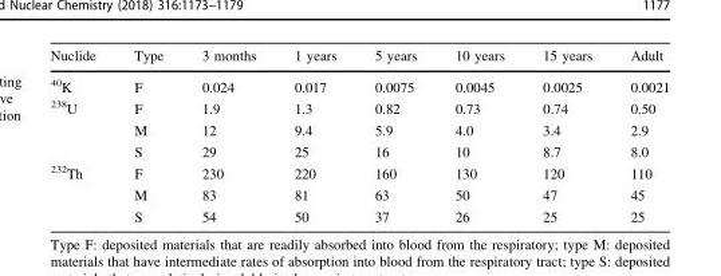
<table><thead><tr><td>Nuclide</td><td>Type</td><td>3 months</td><td>1 years</td><td>5 years</td><td>10 years</td><td>15 years</td><td>Adult</td></tr></thead><tbody><tr><td><sup>40</sup>K</td><td>F</td><td>0.024</td><td>0.017</td><td>0.0075</td><td>0.0045</td><td>0.0025</td><td>0.0021</td></tr><tr><td rowspan="3"><sup>238</sup>U</td><td>F</td><td>1.9</td><td>1.3</td><td>0.82</td><td>0.73</td><td>0.74</td><td>0.50</td></tr><tr><td>M</td><td>12</td><td>9.4</td><td>5.9</td><td>4.0</td><td>3.4</td><td>2.9</td></tr><tr><td>S</td><td>29</td><td>25</td><td>16</td><td>10</td><td>8.7</td><td>8.0</td></tr><tr><td rowspan="3"><sup>232</sup>Th</td><td>F</td><td>230</td><td>220</td><td>160</td><td>130</td><td>120</td><td>110</td></tr><tr><td>M</td><td>83</td><td>81</td><td>63</td><td>50</td><td>47</td><td>45</td></tr><tr><td>S</td><td>54</td><td>50</td><td>37</td><td>26</td><td>25</td><td>25</td></tr></tbody></table>